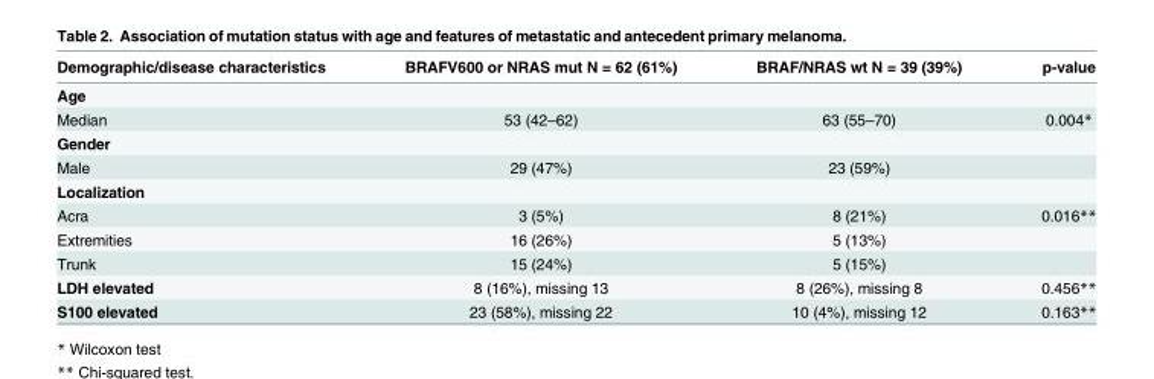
<table><thead><tr><td>Demographic/disease characteristics</td><td>BRAFV600 or NRAS mut N = 62 (61%)</td><td>BRAF/NRAS wt N = 39 (39%)</td><td>p-value</td></tr></thead><tbody><tr><td colspan="4">Age</td></tr><tr><td>Median</td><td>53 (42–62)</td><td>63 (55–70)</td><td>0.004*</td></tr><tr><td colspan="4">Gender</td></tr><tr><td>Male</td><td>29 (47%)</td><td>23 (59%)</td><td></td></tr><tr><td colspan="4">Localization</td></tr><tr><td>Acra</td><td>3 (5%)</td><td>8 (21%)</td><td>0.016**</td></tr><tr><td>Extremities</td><td>16 (26%)</td><td>5 (13%)</td><td></td></tr><tr><td>Trunk</td><td>15 (24%)</td><td>5 (15%)</td><td></td></tr><tr><td>LDH elevated</td><td>8 (16%), missing 13</td><td>8 (26%), missing 8</td><td>0.456**</td></tr><tr><td>S100 elevated</td><td>23 (58%), missing 22</td><td>10 (4%), missing 12</td><td>0.163**</td></tr></tbody></table>